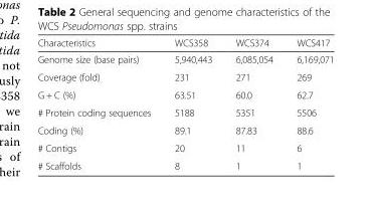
<table><thead><tr><td>Characteristics</td><td>WCS358</td><td>WCS374</td><td>WCS417</td></tr></thead><tbody><tr><td>Genome size (base pairs)</td><td>5,940,443</td><td>6,085,054</td><td>6,169,071</td></tr><tr><td>Coverage (fold)</td><td>231</td><td>271</td><td>269</td></tr><tr><td>G + C (%)</td><td>63.51</td><td>60.0</td><td>62.7</td></tr><tr><td># Protein coding sequences</td><td>5188</td><td>5351</td><td>5506</td></tr><tr><td>Coding (%)</td><td>89.1</td><td>87.83</td><td>88.6</td></tr><tr><td># Contigs</td><td>20</td><td>11</td><td>6</td></tr><tr><td># Scaffolds</td><td>8</td><td>1</td><td>1</td></tr></tbody></table>